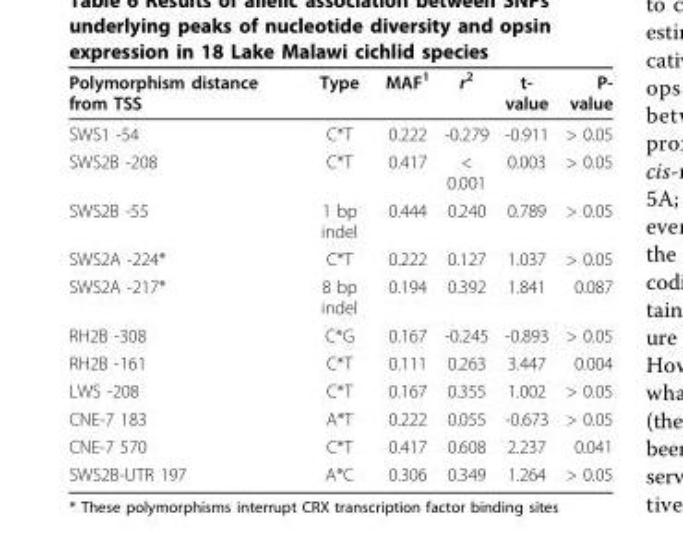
<table><thead><tr><td>Polymorphism distance from TSS</td><td>Type</td><td>MAF<sup>1</sup></td><td>r<sup>2</sup></td><td>t- value</td><td>P- value</td></tr></thead><tbody><tr><td>SWS1 -54</td><td>C*T</td><td>0.222</td><td>-0.279</td><td>-0.911</td><td>&gt; 0.05</td></tr><tr><td>SWS2B -208</td><td>C*T</td><td>0.417</td><td>&lt; 0.001</td><td>0.003</td><td>&gt; 0.05</td></tr><tr><td>SWS2B -55</td><td>1 bp indel</td><td>0.444</td><td>0.240</td><td>0.789</td><td>&gt; 0.05</td></tr><tr><td>SWS2A -224*</td><td>C*T</td><td>0.222</td><td>0.127</td><td>1.037</td><td>&gt; 0.05</td></tr><tr><td>SWS2A -217*</td><td>8 bp indel</td><td>0.194</td><td>0.392</td><td>1.841</td><td>0.087</td></tr><tr><td>RH2B -308</td><td>C*G</td><td>0.167</td><td>-0.245</td><td>-0.893</td><td>&gt; 0.05</td></tr><tr><td>RH2B -161</td><td>C*T</td><td>0.111</td><td>0.263</td><td>3.447</td><td>0.004</td></tr><tr><td>LWS -208</td><td>C*T</td><td>0.167</td><td>0.355</td><td>1.002</td><td>&gt; 0.05</td></tr><tr><td>CNE-7 183</td><td>A*T</td><td>0.222</td><td>0.055</td><td>-0.673</td><td>&gt; 0.05</td></tr><tr><td>CNE-7 570</td><td>C*T</td><td>0.417</td><td>0.608</td><td>2.237</td><td>0.041</td></tr><tr><td>SWS2B-UTR 197</td><td>A*C</td><td>0.306</td><td>0.349</td><td>1.264</td><td>&gt; 0.05</td></tr></tbody></table>